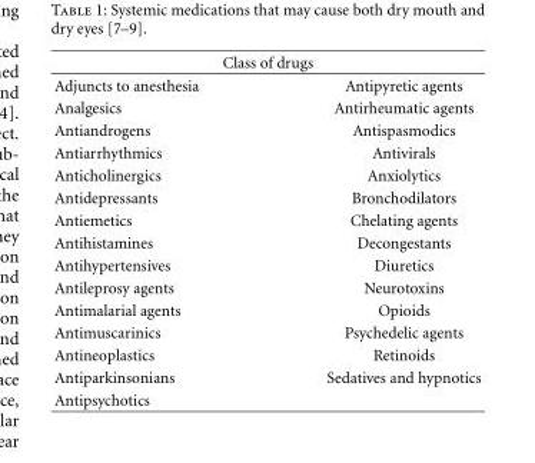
<table><thead><tr><td colspan="2">Class of drugs</td></tr><tr><td>Adjuncts to anesthesia</td><td>Antipyretic agents</td></tr></thead><tbody><tr><td>Analgesics</td><td>Antirheumatic agents</td></tr><tr><td>Antiandrogens</td><td>Antispasmodics</td></tr><tr><td>Antiarrhythmics</td><td>Antivirals</td></tr><tr><td>Anticholinergics</td><td>Anxiolytics</td></tr><tr><td>Antidepressants</td><td>Bronchodilators</td></tr><tr><td>Antiemetics</td><td>Chelating agents</td></tr><tr><td>Antihistamines</td><td>Decongestants</td></tr><tr><td>Antihypertensives</td><td>Diuretics</td></tr><tr><td>Antileprosy agents</td><td>Neurotoxins</td></tr><tr><td>Antimalarial agents</td><td>Opioids</td></tr><tr><td>Antimuscarinics</td><td>Psychedelic agents</td></tr><tr><td>Antineoplastics</td><td>Retinoids</td></tr><tr><td>Antiparkinsonians</td><td>Sedatives and hypnotics</td></tr><tr><td>Antipsychotics</td><td></td></tr></tbody></table>